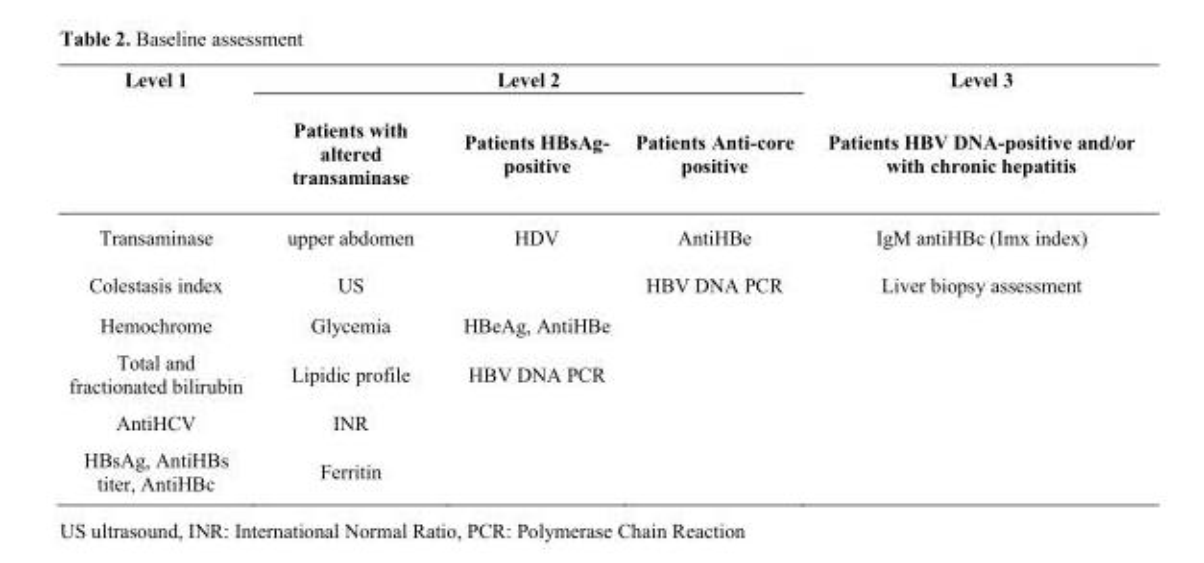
<table><thead><tr><td rowspan="2">Level 1</td><td colspan="3">Level 2</td><td rowspan="2">Level 3 Patients HBV DNA-positive and/or with chronic hepatitis</td></tr><tr><td>Patients with altered transaminase</td><td>Patients HBsAg- positive</td><td>Patients Anti-core positive</td></tr></thead><tbody><tr><td>Transaminase</td><td>upper abdomen</td><td>HDV</td><td>AntiHBe</td><td>IgM antiHBc (Imx index)</td></tr><tr><td>Colestasis index</td><td>US</td><td></td><td>HBV DNA PCR</td><td>Liver biopsy assessment</td></tr><tr><td>Hemochrome</td><td>Glycemia</td><td>HBeAg, AntiHBe</td><td></td><td></td></tr><tr><td>Total and fractionated bilirubin</td><td>Lipidic profile</td><td>HBV DNA PCR</td><td></td><td></td></tr><tr><td>AntiHCV</td><td>INR</td><td></td><td></td><td></td></tr><tr><td>HBsAg, AntiHBs titer, AntiHBc</td><td>Ferritin</td><td></td><td></td><td></td></tr></tbody></table>